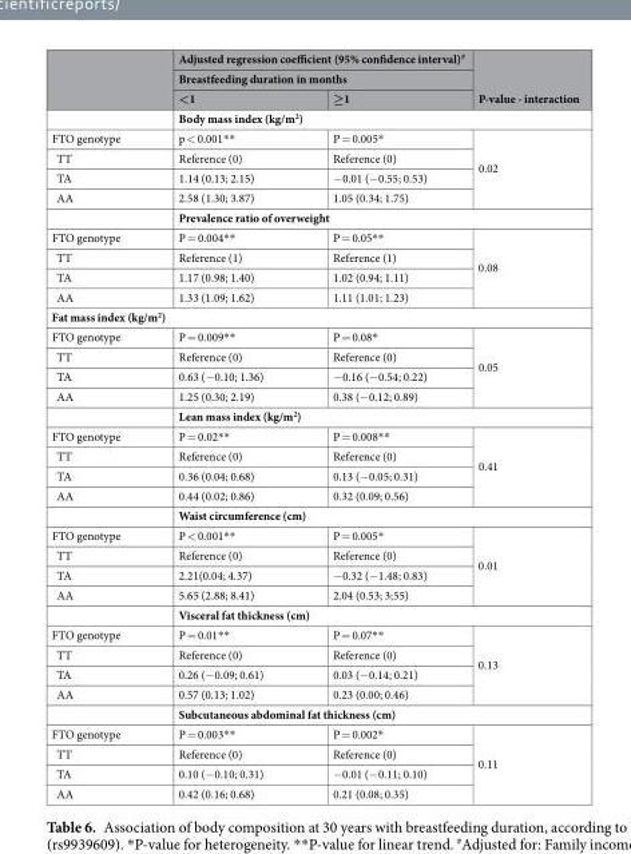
<table><thead><tr><td rowspan="3"></td><td rowspan="2" colspan="2">Adjusted regression coefficient (95% confidence interval)<sup>#</sup> Breastfeeding duration in months</td><td rowspan="3">P-value - interaction</td></tr><tr></tr><tr><td>&lt;1</td><td>≥1</td></tr></thead><tbody><tr><td></td><td colspan="3">Body mass index (kg/m<sup>2</sup>)</td></tr><tr><td>FTO genotype</td><td>p &lt; 0.001**</td><td>P = 0.005*</td><td rowspan="4">0.02</td></tr><tr><td>TT</td><td>Reference (0)</td><td>Reference (0)</td></tr><tr><td>TA</td><td>1.14 (0.13; 2.15)</td><td>−0.01 (−0.55; 0.53)</td></tr><tr><td rowspan="2">AA</td><td>2.58 (1.30; 3.87)</td><td>1.05 (0.34; 1.75)</td></tr><tr><td colspan="3">Prevalence ratio of overweight</td></tr><tr><td>FTO genotype</td><td>P = 0.004**</td><td>P = 0.05**</td><td rowspan="4">0.08</td></tr><tr><td>TT</td><td>Reference (1)</td><td>Reference (1)</td></tr><tr><td>TA</td><td>1.17 (0.98; 1.40)</td><td>1.02 (0.94; 1.11)</td></tr><tr><td>AA</td><td>1.33 (1.09; 1.62)</td><td>1.11 (1.01; 1.23)</td></tr><tr><td colspan="4">Fat mass index (kg/m<sup>2</sup>)</td></tr><tr><td>FTO genotype</td><td>P = 0.009**</td><td>P = 0.08*</td><td rowspan="4">0.05</td></tr><tr><td>TT</td><td>Reference (0)</td><td>Reference (0)</td></tr><tr><td>TA</td><td>0.63 (−0.10; 1.36)</td><td>−0.16 (−0.54; 0.22)</td></tr><tr><td rowspan="2">AA</td><td>1.25 (0.30; 2.19)</td><td>0.38 (−0.12; 0.89)</td></tr><tr><td colspan="3">Lean mass index (kg/m<sup>2</sup>)</td></tr><tr><td>FTO genotype</td><td>P = 0.02**</td><td>P = 0.008**</td><td rowspan="4">0.41</td></tr><tr><td>TT</td><td>Reference (0)</td><td>Reference (0)</td></tr><tr><td>TA</td><td>0.36 (0.04; 0.68)</td><td>0.13 (−0.05; 0.31)</td></tr><tr><td rowspan="2">AA</td><td>0.44 (0.02; 0.86)</td><td>0.32 (0.09; 0.56)</td></tr><tr><td colspan="3">Waist circumference (cm)</td></tr><tr><td>FTO genotype</td><td>P &lt; 0.001**</td><td>P = 0.005*</td><td rowspan="4">0.01</td></tr><tr><td>TT</td><td>Reference (0)</td><td>Reference (0)</td></tr><tr><td>TA</td><td>2.21(0.04; 4.37)</td><td>−0.32 (−1.48; 0.83)</td></tr><tr><td rowspan="2">AA</td><td>5.65 (2.88; 8.41)</td><td>2.04 (0.53; 3;55)</td></tr><tr><td colspan="3">Visceral fat thickness (cm)</td></tr><tr><td>FTO genotype</td><td>P = 0.01**</td><td>P = 0.07**</td><td rowspan="4">0.13</td></tr><tr><td>TT</td><td>Reference (0)</td><td>Reference (0)</td></tr><tr><td>TA</td><td>0.26 (−0.09; 0.61)</td><td>0.03 (−0.14; 0.21)</td></tr><tr><td rowspan="2">AA</td><td>0.57 (0.13; 1.02)</td><td>0.23 (0.00; 0.46)</td></tr><tr><td colspan="3">Subcutaneous abdominal fat thickness (cm)</td></tr><tr><td>FTO genotype</td><td>P = 0.003**</td><td>P = 0.002*</td><td rowspan="4">0.11</td></tr><tr><td>TT</td><td>Reference (0)</td><td>Reference (0)</td></tr><tr><td>TA</td><td>0.10 (−0.10; 0.31)</td><td>−0.01 (−0.11; 0.10)</td></tr><tr><td>AA</td><td>0.42 (0.16; 0.68)</td><td>0.21 (0.08; 0.35)</td></tr></tbody></table>